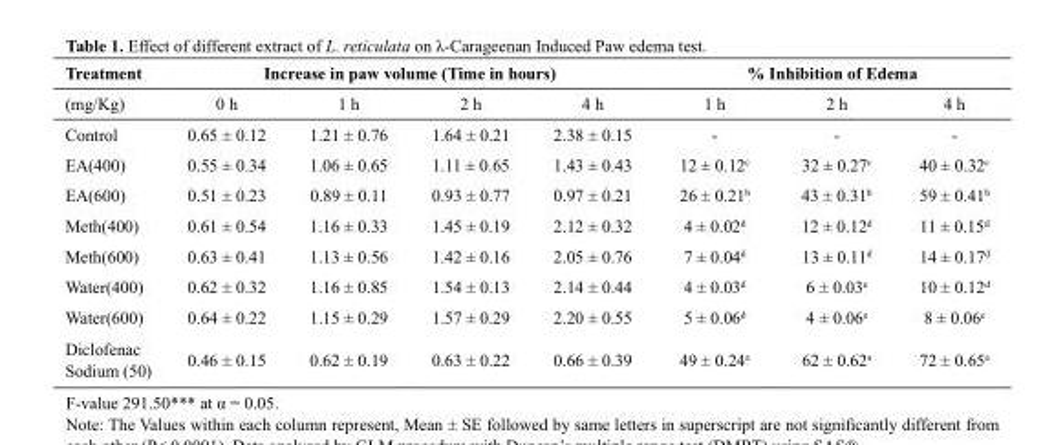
<table><thead><tr><td rowspan="2">Treatment (mg/Kg)</td><td colspan="4">Increase in paw volume (Time in hours)</td><td colspan="3">% Inhibition of Edema</td></tr><tr><td>0 h</td><td>1 h</td><td>2 h</td><td>4 h</td><td>1 h</td><td>2 h</td><td>4 h</td></tr></thead><tbody><tr><td>Control</td><td>0.65 ± 0.12</td><td>1.21 ± 0.76</td><td>1.64 ± 0.21</td><td>2.38 ± 0.15</td><td>-</td><td>-</td><td>-</td></tr><tr><td>EA(400)</td><td>0.55 ± 0.34</td><td>1.06 ± 0.65</td><td>1.11 ± 0.65</td><td>1.43 ± 0.43</td><td>12 ± 0.12c</td><td>32 ± 0.27c</td><td>40 ± 0.32c</td></tr><tr><td>EA(600)</td><td>0.51 ± 0.23</td><td>0.89 ± 0.11</td><td>0.93 ± 0.77</td><td>0.97 ± 0.21</td><td>26 ± 0.21b</td><td>43 ± 0.31b</td><td>59 ± 0.41b</td></tr><tr><td>Meth(400)</td><td>0.61 ± 0.54</td><td>1.16 ± 0.33</td><td>1.45 ± 0.19</td><td>2.12 ± 0.32</td><td>4 ± 0.02d</td><td>12 ± 0.12d</td><td>11 ± 0.15d</td></tr><tr><td>Meth(600)</td><td>0.63 ± 0.41</td><td>1.13 ± 0.56</td><td>1.42 ± 0.16</td><td>2.05 ± 0.76</td><td>7 ± 0.04d</td><td>13 ± 0.11d</td><td>14 ± 0.17d</td></tr><tr><td>Water(400)</td><td>0.62 ± 0.32</td><td>1.16 ± 0.85</td><td>1.54 ± 0.13</td><td>2.14 ± 0.44</td><td>4 ± 0.03d</td><td>6 ± 0.03e</td><td>10 ± 0.12d</td></tr><tr><td>Water(600)</td><td>0.64 ± 0.22</td><td>1.15 ± 0.29</td><td>1.57 ± 0.29</td><td>2.20 ± 0.55</td><td>5 ± 0.06d</td><td>4 ± 0.06e</td><td>8 ± 0.06e</td></tr><tr><td>Diclofenac Sodium (50)</td><td>0.46 ± 0.15</td><td>0.62 ± 0.19</td><td>0.63 ± 0.22</td><td>0.66 ± 0.39</td><td>49 ± 0.24a</td><td>62 ± 0.62a</td><td>72 ± 0.65a</td></tr></tbody></table>